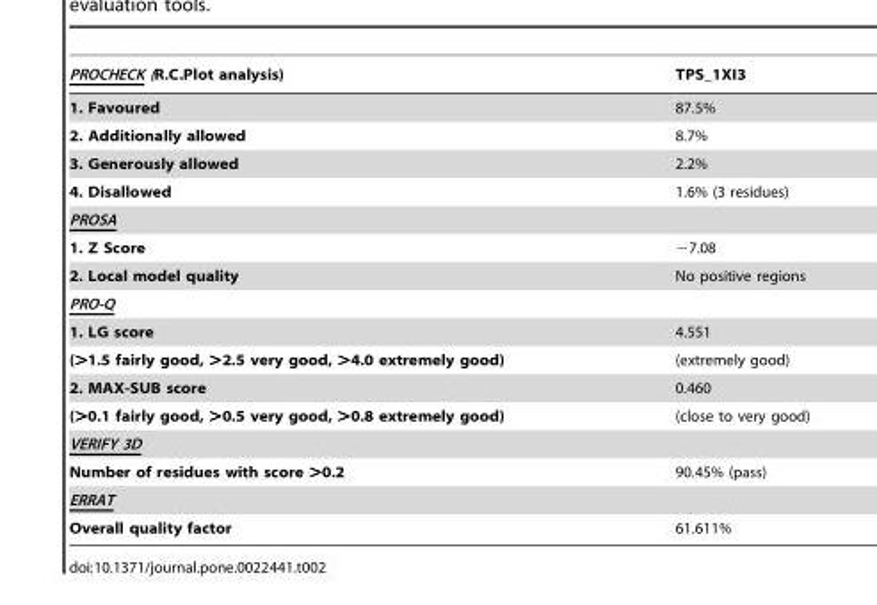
<table><thead><tr><td>PROCHECK (R.C.Plot analysis)</td><td>TPS_1XI3</td></tr></thead><tbody><tr><td>1. Favoured</td><td>87.5%</td></tr><tr><td>2. Additionally allowed</td><td>8.7%</td></tr><tr><td>3. Generously allowed</td><td>2.2%</td></tr><tr><td>4. Disallowed</td><td>1.6% (3 residues)</td></tr><tr><td colspan="2">PROSA</td></tr><tr><td>1. Z Score</td><td>−7.08</td></tr><tr><td>2. Local model quality</td><td>No positive regions</td></tr><tr><td colspan="2">PRO-Q</td></tr><tr><td>1. LG score</td><td>4.551</td></tr><tr><td>(&gt;1.5 fairly good, &gt;2.5 very good, &gt;4.0 extremely good)</td><td>(extremely good)</td></tr><tr><td>2. MAX-SUB score</td><td>0.460</td></tr><tr><td>(&gt;0.1 fairly good, &gt;0.5 very good, &gt;0.8 extremely good)</td><td>(close to very good)</td></tr><tr><td colspan="2">VERIFY 3D</td></tr><tr><td>Number of residues with score &gt;0.2</td><td>90.45% (pass)</td></tr><tr><td colspan="2">ERRAT</td></tr><tr><td>Overall quality factor</td><td>61.611%</td></tr></tbody></table>